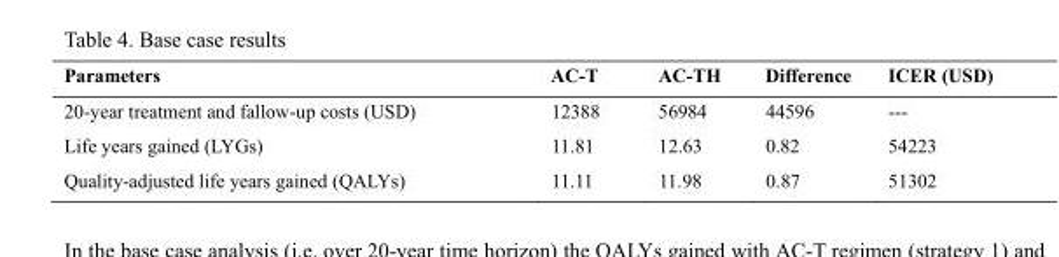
<table><thead><tr><td>Parameters</td><td>AC-T</td><td>AC-TH</td><td>Difference</td><td>ICER (USD)</td></tr></thead><tbody><tr><td>20-year treatment and fallow-up costs (USD)</td><td>12388</td><td>56984</td><td>44596</td><td>---</td></tr><tr><td>Life years gained (LYGs)</td><td>11.81</td><td>12.63</td><td>0.82</td><td>54223</td></tr><tr><td>Quality-adjusted life years gained (QALYs)</td><td>11.11</td><td>11.98</td><td>0.87</td><td>51302</td></tr></tbody></table>